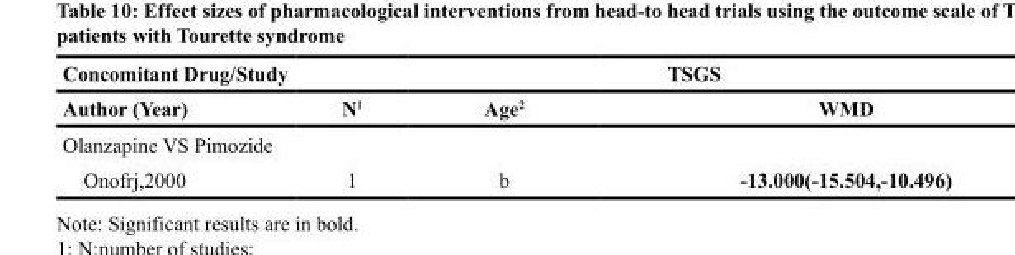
<table><thead><tr><td rowspan="2">Concomitant Drug/Study Author (Year)</td><td colspan="3">TSGS</td></tr><tr><td>N<sup>1</sup></td><td>Age<sup>2</sup></td><td>WMD</td></tr></thead><tbody><tr><td colspan="4">Olanzapine VS Pimozide</td></tr><tr><td>Onofrj,2000</td><td>1</td><td>b</td><td>-13.000(-15.504,-10.496)</td></tr></tbody></table>